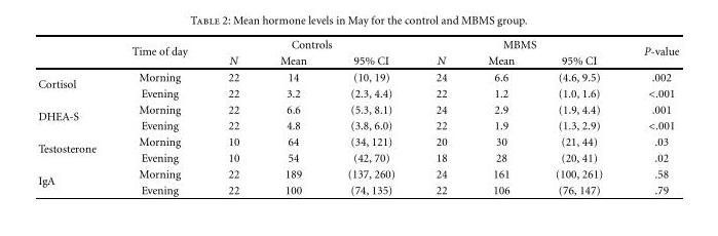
<table><thead><tr><td rowspan="2"></td><td rowspan="2">Time of day</td><td colspan="3">Controls</td><td colspan="3">MBMS</td><td rowspan="2">P-value</td></tr><tr><td>N</td><td>Mean</td><td>95% CI</td><td>N</td><td>Mean</td><td>95% CI</td></tr></thead><tbody><tr><td rowspan="2">Cortisol</td><td>Morning</td><td>22</td><td>14</td><td>(10, 19)</td><td>24</td><td>6.6</td><td>(4.6, 9.5)</td><td>.002</td></tr><tr><td>Evening</td><td>22</td><td>3.2</td><td>(2.3, 4.4)</td><td>22</td><td>1.2</td><td>(1.0, 1.6)</td><td>&lt;.001</td></tr><tr><td rowspan="2">DHEA-S</td><td>Morning</td><td>22</td><td>6.6</td><td>(5.3, 8.1)</td><td>24</td><td>2.9</td><td>(1.9, 4.4)</td><td>.001</td></tr><tr><td>Evening</td><td>22</td><td>4.8</td><td>(3.8, 6.0)</td><td>22</td><td>1.9</td><td>(1.3, 2.9)</td><td>&lt;.001</td></tr><tr><td rowspan="2">Testosterone</td><td>Morning</td><td>10</td><td>64</td><td>(34, 121)</td><td>20</td><td>30</td><td>(21, 44)</td><td>.03</td></tr><tr><td>Evening</td><td>10</td><td>54</td><td>(42, 70)</td><td>18</td><td>28</td><td>(20, 41)</td><td>.02</td></tr><tr><td rowspan="2">IgA</td><td>Morning</td><td>22</td><td>189</td><td>(137, 260)</td><td>24</td><td>161</td><td>(100, 261)</td><td>.58</td></tr><tr><td>Evening</td><td>22</td><td>100</td><td>(74, 135)</td><td>22</td><td>106</td><td>(76, 147)</td><td>.79</td></tr></tbody></table>